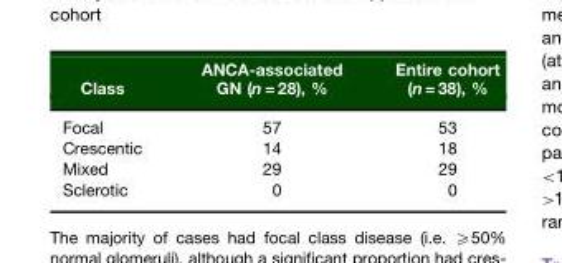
<table><thead><tr><td>Class</td><td>ANCA-associated GN (n = 28), %</td><td>Entire cohort (n = 38), %</td></tr></thead><tbody><tr><td>Focal</td><td>57</td><td>53</td></tr><tr><td>Crescentic</td><td>14</td><td>18</td></tr><tr><td>Mixed</td><td>29</td><td>29</td></tr><tr><td>Sclerotic</td><td>0</td><td>0</td></tr></tbody></table>